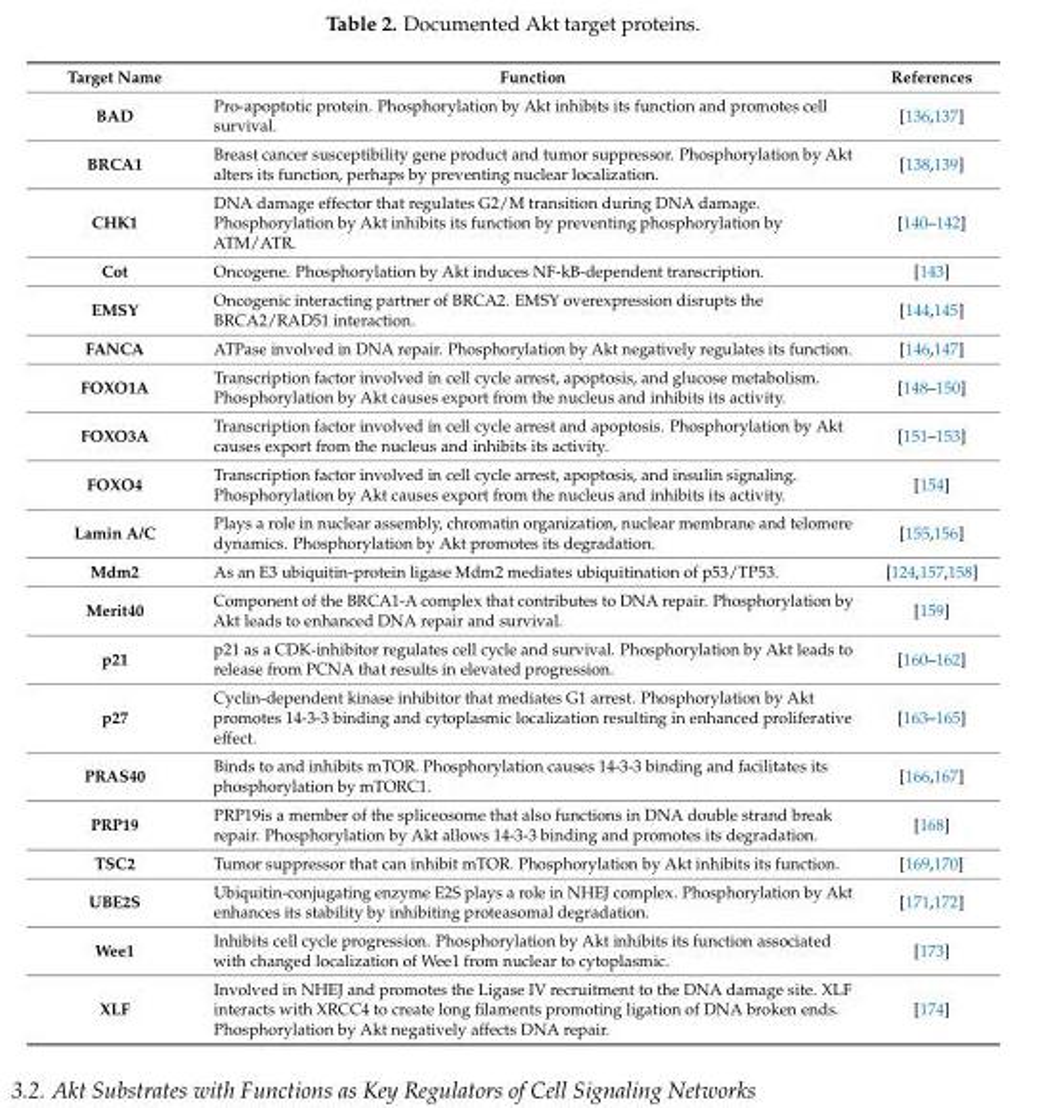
<table><thead><tr><td>Target Name</td><td>Function</td><td>References</td></tr></thead><tbody><tr><td>BAD</td><td>Pro-apoptotic protein. Phosphorylation by Akt inhibits its function and promotes cell survival.</td><td>[136,137]</td></tr><tr><td>BRCA1</td><td>Breast cancer susceptibility gene product and tumor suppressor. Phosphorylation by Akt alters its function, perhaps by preventing nuclear localization.</td><td>[138,139]</td></tr><tr><td>CHK1</td><td>DNA damage effector that regulates G2/M transition during DNA damage. Phosphorylation by Akt inhibits its function by preventing phosphorylation by ATM/ATR.</td><td>[140–142]</td></tr><tr><td>Cot</td><td>Oncogene. Phosphorylation by Akt induces NF-kB-dependent transcription.</td><td>[143]</td></tr><tr><td>EMSY</td><td>Oncogenic interacting partner of BRCA2. EMSY overexpression disrupts the BRCA2/RAD51 interaction.</td><td>[144,145]</td></tr><tr><td>FANCA</td><td>ATPase involved in DNA repair. Phosphorylation by Akt negatively regulates its function.</td><td>[146,147]</td></tr><tr><td>FOXO1A</td><td>Transcription factor involved in cell cycle arrest, apoptosis, and glucose metabolism. Phosphorylation by Akt causes export from the nucleus and inhibits its activity.</td><td>[148–150]</td></tr><tr><td>FOXO3A</td><td>Transcription factor involved in cell cycle arrest and apoptosis. Phosphorylation by Akt causes export from the nucleus and inhibits its activity.</td><td>[151–153]</td></tr><tr><td>FOXO4</td><td>Transcription factor involved in cell cycle arrest, apoptosis, and insulin signaling. Phosphorylation by Akt causes export from the nucleus and inhibits its activity.</td><td>[154]</td></tr><tr><td>Lamin A/C</td><td>Plays a role in nuclear assembly, chromatin organization, nuclear membrane and telomere dynamics. Phosphorylation by Akt promotes its degradation.</td><td>[155,156]</td></tr><tr><td>Mdm2</td><td>As an E3 ubiquitin-protein ligase Mdm2 mediates ubiquitination of p53/TP53.</td><td>[124,157,158]</td></tr><tr><td>Merit40</td><td>Component of the BRCA1-A complex that contributes to DNA repair. Phosphorylation by Akt leads to enhanced DNA repair and survival.</td><td>[159]</td></tr><tr><td>p21</td><td>p21 as a CDK-inhibitor regulates cell cycle and survival. Phosphorylation by Akt leads to release from PCNA that results in elevated progression.</td><td>[160–162]</td></tr><tr><td>p27</td><td>Cyclin-dependent kinase inhibitor that mediates G1 arrest. Phosphorylation by Akt promotes 14-3-3 binding and cytoplasmic localization resulting in enhanced proliferative effect.</td><td>[163–165]</td></tr><tr><td>PRAS40</td><td>Binds to and inhibits mTOR. Phosphorylation causes 14-3-3 binding and facilitates its phosphorylation by mTORC1.</td><td>[166,167]</td></tr><tr><td>PRP19</td><td>PRP19is a member of the spliceosome that also functions in DNA double strand break repair. Phosphorylation by Akt allows 14-3-3 binding and promotes its degradation.</td><td>[168]</td></tr><tr><td>TSC2</td><td>Tumor suppressor that can inhibit mTOR. Phosphorylation by Akt inhibits its function.</td><td>[169,170]</td></tr><tr><td>UBE2S</td><td>Ubiquitin-conjugating enzyme E2S plays a role in NHEJ complex. Phosphorylation by Akt enhances its stability by inhibiting proteasomal degradation.</td><td>[171,172]</td></tr><tr><td>Wee1</td><td>Inhibits cell cycle progression. Phosphorylation by Akt inhibits its function associated with changed localization of Wee1 from nuclear to cytoplasmic.</td><td>[173]</td></tr><tr><td>XLF</td><td>Involved in NHEJ and promotes the Ligase IV recruitment to the DNA damage site. XLF interacts with XRCC4 to create long filaments promoting ligation of DNA broken ends. Phosphorylation by Akt negatively affects DNA repair.</td><td>[174]</td></tr></tbody></table>